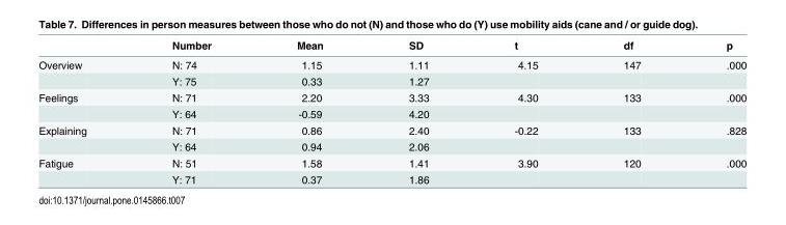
<table><thead><tr><td></td><td>Number</td><td>Mean</td><td>SD</td><td>t</td><td>df</td><td>p</td></tr></thead><tbody><tr><td rowspan="2">Overview</td><td>N: 74</td><td>1.15</td><td>1.11</td><td>4.15</td><td>147</td><td>.000</td></tr><tr><td>Y: 75</td><td>0.33</td><td>1.27</td><td></td><td></td><td></td></tr><tr><td rowspan="2">Feelings</td><td>N: 71</td><td>2.20</td><td>3.33</td><td>4.30</td><td>133</td><td>.000</td></tr><tr><td>Y: 64</td><td>-0.59</td><td>4.20</td><td></td><td></td><td></td></tr><tr><td rowspan="2">Explaining</td><td>N: 71</td><td>0.86</td><td>2.40</td><td>-0.22</td><td>133</td><td>.828</td></tr><tr><td>Y: 64</td><td>0.94</td><td>2.06</td><td></td><td></td><td></td></tr><tr><td rowspan="2">Fatigue</td><td>N: 51</td><td>1.58</td><td>1.41</td><td>3.90</td><td>120</td><td>.000</td></tr><tr><td>Y: 71</td><td>0.37</td><td>1.86</td><td></td><td></td><td></td></tr></tbody></table>